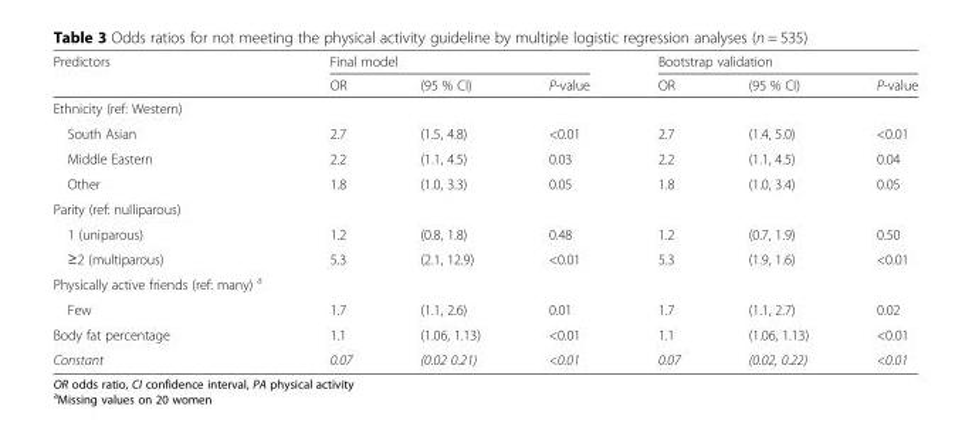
<table><thead><tr><td rowspan="2">Predictors</td><td colspan="3">Final model</td><td colspan="3">Bootstrap validation</td></tr><tr><td>OR</td><td>(95 % CI)</td><td>P-value</td><td>OR</td><td>(95 % CI)</td><td>P-value</td></tr></thead><tbody><tr><td colspan="7">Ethnicity (ref: Western)</td></tr><tr><td>South Asian</td><td>2.7</td><td>(1.5, 4.8)</td><td>&lt;0.01</td><td>2.7</td><td>(1.4, 5.0)</td><td>&lt;0.01</td></tr><tr><td>Middle Eastern</td><td>2.2</td><td>(1.1, 4.5)</td><td>0.03</td><td>2.2</td><td>(1.1, 4.5)</td><td>0.04</td></tr><tr><td>Other</td><td>1.8</td><td>(1.0, 3.3)</td><td>0.05</td><td>1.8</td><td>(1.0, 3.4)</td><td>0.05</td></tr><tr><td colspan="7">Parity (ref: nulliparous)</td></tr><tr><td>1 (uniparous)</td><td>1.2</td><td>(0.8, 1.8)</td><td>0.48</td><td>1.2</td><td>(0.7, 1.9)</td><td>0.50</td></tr><tr><td>≥2 (multiparous)</td><td>5.3</td><td>(2.1, 12.9)</td><td>&lt;0.01</td><td>5.3</td><td>(1.9, 1.6)</td><td>&lt;0.01</td></tr><tr><td colspan="7">Physically active friends (ref: many) <sup>a</sup></td></tr><tr><td>Few</td><td>1.7</td><td>(1.1, 2.6)</td><td>0.01</td><td>1.7</td><td>(1.1, 2.7)</td><td>0.02</td></tr><tr><td>Body fat percentage</td><td>1.1</td><td>(1.06, 1.13)</td><td>&lt;0.01</td><td>1.1</td><td>(1.06, 1.13)</td><td>&lt;0.01</td></tr><tr><td>Constant</td><td>0.07</td><td>(0.02 0.21)</td><td>&lt;0.01</td><td>0.07</td><td>(0.02, 0.22)</td><td>&lt;0.01</td></tr></tbody></table>